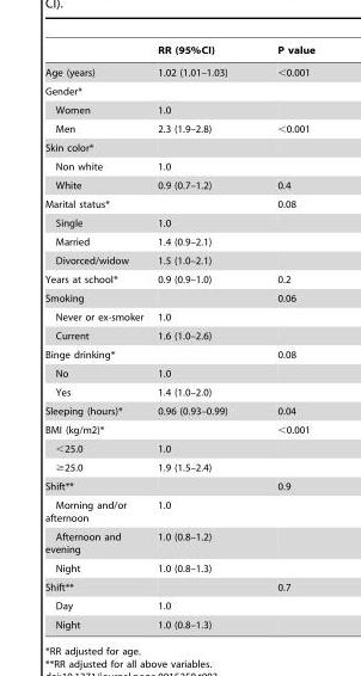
<table><thead><tr><td></td><td>RR (95%CI)</td><td>P value</td></tr></thead><tbody><tr><td>Age (years)</td><td>1.02 (1.01–1.03)</td><td>&lt;0.001</td></tr><tr><td colspan="3">Gender*</td></tr><tr><td>Women</td><td>1.0</td><td></td></tr><tr><td>Men</td><td>2.3 (1.9–2.8)</td><td>&lt;0.001</td></tr><tr><td colspan="3">Skin color*</td></tr><tr><td>Non white</td><td>1.0</td><td></td></tr><tr><td>White</td><td>0.9 (0.7–1.2)</td><td>0.4</td></tr><tr><td>Marital status*</td><td></td><td>0.08</td></tr><tr><td>Single</td><td>1.0</td><td></td></tr><tr><td>Married</td><td>1.4 (0.9–2.1)</td><td></td></tr><tr><td>Divorced/widow</td><td>1.5 (1.0–2.1)</td><td></td></tr><tr><td>Years at school*</td><td>0.9 (0.9–1.0)</td><td>0.2</td></tr><tr><td>Smoking</td><td></td><td>0.06</td></tr><tr><td>Never or ex-smoker</td><td>1.0</td><td></td></tr><tr><td>Current</td><td>1.6 (1.0–2.6)</td><td></td></tr><tr><td>Binge drinking*</td><td></td><td>0.08</td></tr><tr><td>No</td><td>1.0</td><td></td></tr><tr><td>Yes</td><td>1.4 (1.0–2.0)</td><td></td></tr><tr><td>Sleeping (hours)*</td><td>0.96 (0.93–0.99)</td><td>0.04</td></tr><tr><td>BMI (kg/m2)*</td><td></td><td>&lt;0.001</td></tr><tr><td>&lt;25.0</td><td>1.0</td><td></td></tr><tr><td>≥25.0</td><td>1.9 (1.5–2.4)</td><td></td></tr><tr><td>Shift**</td><td></td><td>0.9</td></tr><tr><td>Morning and/or afternoon</td><td>1.0</td><td></td></tr><tr><td>Afternoon and evening</td><td>1.0 (0.8–1.2)</td><td></td></tr><tr><td>Night</td><td>1.0 (0.8–1.3)</td><td></td></tr><tr><td>Shift**</td><td></td><td>0.7</td></tr><tr><td>Day</td><td>1.0</td><td></td></tr><tr><td>Night</td><td>1.0 (0.8–1.3)</td><td></td></tr></tbody></table>